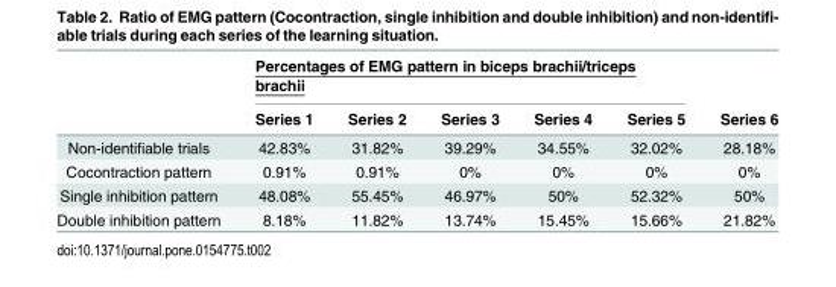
<table><thead><tr><td rowspan="2"></td><td colspan="5">Percentages of EMG pattern in biceps brachii/triceps brachii</td><td rowspan="2">Series 6</td></tr><tr><td>Series 1</td><td>Series 2</td><td>Series 3</td><td>Series 4</td><td>Series 5</td></tr></thead><tbody><tr><td>Non-identifiable trials</td><td>42.83%</td><td>31.82%</td><td>39.29%</td><td>34.55%</td><td>32.02%</td><td>28.18%</td></tr><tr><td>Cocontraction pattern</td><td>0.91%</td><td>0.91%</td><td>0%</td><td>0%</td><td>0%</td><td>0%</td></tr><tr><td>Single inhibition pattern</td><td>48.08%</td><td>55.45%</td><td>46.97%</td><td>50%</td><td>52.32%</td><td>50%</td></tr><tr><td>Double inhibition pattern</td><td>8.18%</td><td>11.82%</td><td>13.74%</td><td>15.45%</td><td>15.66%</td><td>21.82%</td></tr></tbody></table>